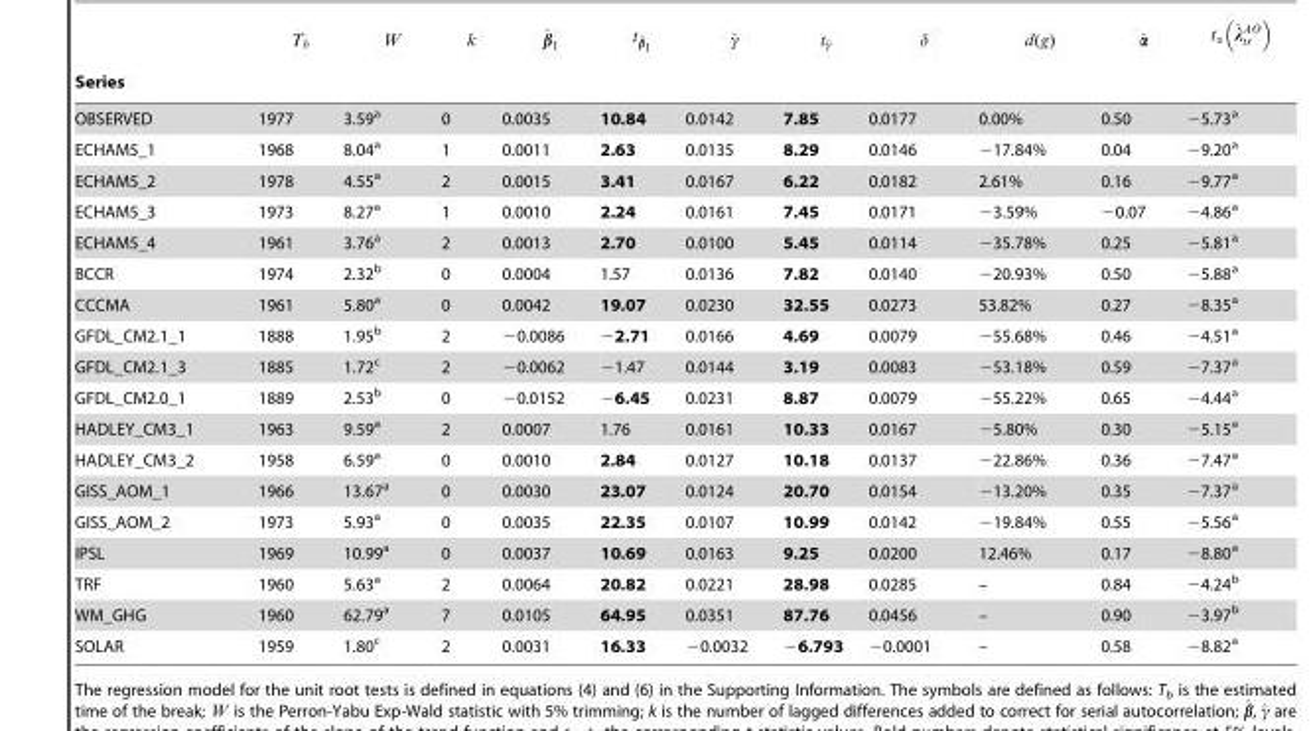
<table><thead><tr><td>Series</td><td></td><td></td><td></td><td></td><td></td><td></td><td></td><td></td><td></td><td></td><td></td></tr></thead><tbody><tr><td>OBSERVED</td><td>1977</td><td>3.59<sup>a</sup></td><td>0</td><td>0.0035</td><td>10.84</td><td>0.0142</td><td>7.85</td><td>0.0177</td><td>0.00%</td><td>0.50</td><td>−5.73<sup>a</sup></td></tr><tr><td>ECHAM5_1</td><td>1968</td><td>8.04<sup>a</sup></td><td>1</td><td>0.0011</td><td>2.63</td><td>0.0135</td><td>8.29</td><td>0.0146</td><td>−17.84%</td><td>0.04</td><td>−9.20<sup>a</sup></td></tr><tr><td>ECHAM5_2</td><td>1978</td><td>4.55<sup>a</sup></td><td>2</td><td>0.0015</td><td>3.41</td><td>0.0167</td><td>6.22</td><td>0.0182</td><td>2.61%</td><td>0.16</td><td>−9.77<sup>a</sup></td></tr><tr><td>ECHAM5_3</td><td>1973</td><td>8.27<sup>a</sup></td><td>1</td><td>0.0010</td><td>2.24</td><td>0.0161</td><td>7.45</td><td>0.0171</td><td>−3.59%</td><td>−0.07</td><td>−4.86<sup>a</sup></td></tr><tr><td>ECHAM5_4</td><td>1961</td><td>3.76<sup>a</sup></td><td>2</td><td>0.0013</td><td>2.70</td><td>0.0100</td><td>5.45</td><td>0.0114</td><td>−35.78%</td><td>0.25</td><td>−5.81<sup>a</sup></td></tr><tr><td>BCCR</td><td>1974</td><td>2.32<sup>b</sup></td><td>0</td><td>0.0004</td><td>1.57</td><td>0.0136</td><td>7.82</td><td>0.0140</td><td>−20.93%</td><td>0.50</td><td>−5.88<sup>a</sup></td></tr><tr><td>CCCMA</td><td>1961</td><td>5.80<sup>a</sup></td><td>0</td><td>0.0042</td><td>19.07</td><td>0.0230</td><td>32.55</td><td>0.0273</td><td>53.82%</td><td>0.27</td><td>−8.35<sup>a</sup></td></tr><tr><td>GFDL_CM2.1_1</td><td>1888</td><td>1.95<sup>b</sup></td><td>2</td><td>−0.0086</td><td>−2.71</td><td>0.0166</td><td>4.69</td><td>0.0079</td><td>−55.68%</td><td>0.46</td><td>−4.51<sup>a</sup></td></tr><tr><td>GFDL_CM2.1_3</td><td>1885</td><td>1.72<sup>c</sup></td><td>2</td><td>−0.0062</td><td>−1.47</td><td>0.0144</td><td>3.19</td><td>0.0083</td><td>−53.18%</td><td>0.59</td><td>−7.37<sup>a</sup></td></tr><tr><td>GFDL_CM2.0_1</td><td>1889</td><td>2.53<sup>b</sup></td><td>0</td><td>−0.0152</td><td>−6.45</td><td>0.0231</td><td>8.87</td><td>0.0079</td><td>−55.22%</td><td>0.65</td><td>−4.44<sup>a</sup></td></tr><tr><td>HADLEY_CM3_1</td><td>1963</td><td>9.59<sup>a</sup></td><td>2</td><td>0.0007</td><td>1.76</td><td>0.0161</td><td>10.33</td><td>0.0167</td><td>−5.80%</td><td>0.30</td><td>−5.15<sup>a</sup></td></tr><tr><td>HADLEY_CM3_2</td><td>1958</td><td>6.59<sup>a</sup></td><td>0</td><td>0.0010</td><td>2.84</td><td>0.0127</td><td>10.18</td><td>0.0137</td><td>−22.86%</td><td>0.36</td><td>−7.47<sup>a</sup></td></tr><tr><td>GISS_AOM_1</td><td>1966</td><td>13.67<sup>a</sup></td><td>0</td><td>0.0030</td><td>23.07</td><td>0.0124</td><td>20.70</td><td>0.0154</td><td>−13.20%</td><td>0.35</td><td>−7.37<sup>a</sup></td></tr><tr><td>GISS_AOM_2</td><td>1973</td><td>5.93<sup>a</sup></td><td>0</td><td>0.0035</td><td>22.35</td><td>0.0107</td><td>10.99</td><td>0.0142</td><td>−19.84%</td><td>0.55</td><td>−5.56<sup>a</sup></td></tr><tr><td>IPSL</td><td>1969</td><td>10.99<sup>a</sup></td><td>0</td><td>0.0037</td><td>10.69</td><td>0.0163</td><td>9.25</td><td>0.0200</td><td>12.46%</td><td>0.17</td><td>−8.80<sup>a</sup></td></tr><tr><td>TRF</td><td>1960</td><td>5.63<sup>a</sup></td><td>2</td><td>0.0064</td><td>20.82</td><td>0.0221</td><td>28.98</td><td>0.0285</td><td>–</td><td>0.84</td><td>−4.24<sup>b</sup></td></tr><tr><td>WM_GHG</td><td>1960</td><td>62.79<sup>a</sup></td><td>7</td><td>0.0105</td><td>64.95</td><td>0.0351</td><td>87.76</td><td>0.0456</td><td>–</td><td>0.90</td><td>−3.97<sup>b</sup></td></tr><tr><td>SOLAR</td><td>1959</td><td>1.80<sup>c</sup></td><td>2</td><td>0.0031</td><td>16.33</td><td>−0.0032</td><td>−6.793</td><td>−0.0001</td><td>–</td><td>0.58</td><td>−8.82<sup>a</sup></td></tr></tbody></table>